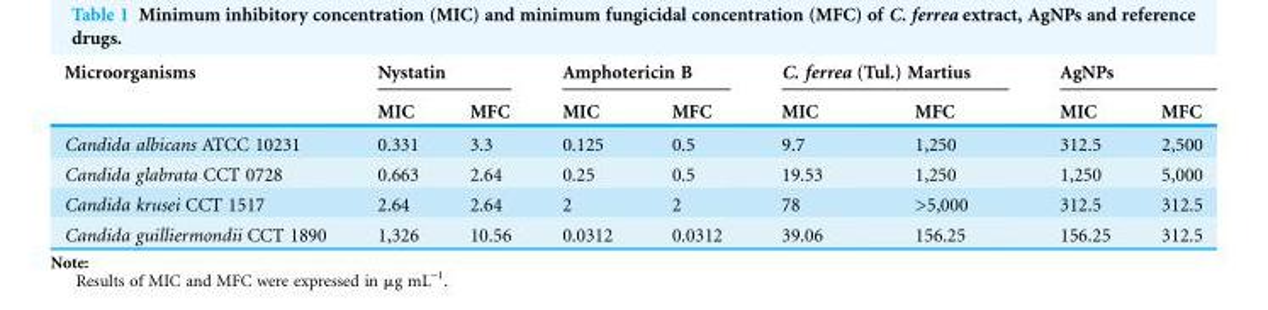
<table><thead><tr><td rowspan="2">Microorganisms</td><td colspan="2">Nystatin</td><td colspan="2">Amphotericin B</td><td colspan="2">C. ferrea (Tul.) Martius</td><td colspan="2">AgNPs</td></tr><tr><td>MIC</td><td>MFC</td><td>MIC</td><td>MFC</td><td>MIC</td><td>MFC</td><td>MIC</td><td>MFC</td></tr></thead><tbody><tr><td>Candida albicans ATCC 10231</td><td>0.331</td><td>3.3</td><td>0.125</td><td>0.5</td><td>9.7</td><td>1,250</td><td>312.5</td><td>2,500</td></tr><tr><td>Candida glabrata CCT 0728</td><td>0.663</td><td>2.64</td><td>0.25</td><td>0.5</td><td>19.53</td><td>1,250</td><td>1,250</td><td>5,000</td></tr><tr><td>Candida krusei CCT 1517</td><td>2.64</td><td>2.64</td><td>2</td><td>2</td><td>78</td><td>&gt;5,000</td><td>312.5</td><td>312.5</td></tr><tr><td>Candida guilliermondii CCT 1890</td><td>1,326</td><td>10.56</td><td>0.0312</td><td>0.0312</td><td>39.06</td><td>156.25</td><td>156.25</td><td>312.5</td></tr></tbody></table>